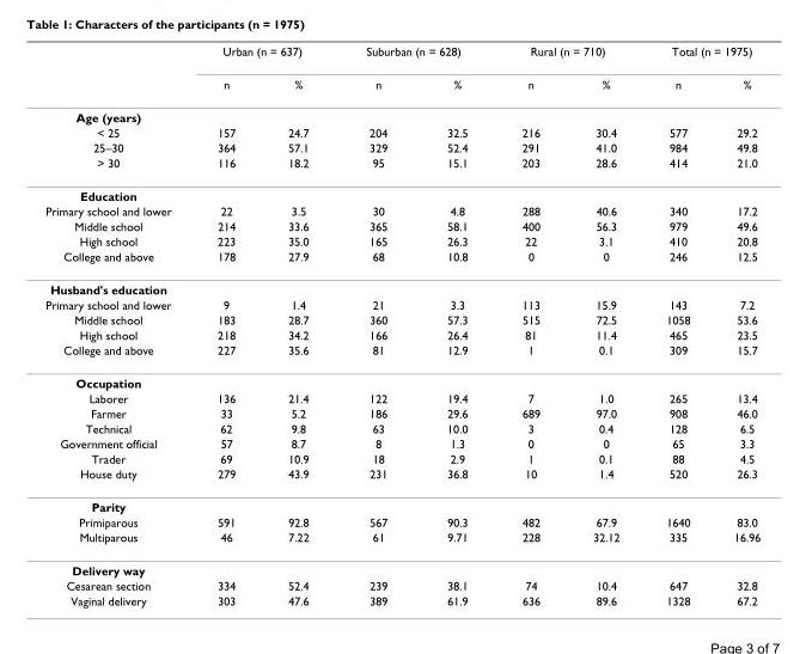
<table><thead><tr><td rowspan="2"></td><td colspan="2">Urban (n = 637)</td><td colspan="2">Suburban (n = 628)</td><td colspan="2">Rural (n = 710)</td><td colspan="2">Total (n = 1975)</td></tr><tr><td>n</td><td>%</td><td>n</td><td>%</td><td>n</td><td>%</td><td>n</td><td>%</td></tr></thead><tbody><tr><td colspan="9">Age (years)</td></tr><tr><td>&lt; 25</td><td>157</td><td>24.7</td><td>204</td><td>32.5</td><td>216</td><td>30.4</td><td>577</td><td>29.2</td></tr><tr><td>25–30</td><td>364</td><td>57.1</td><td>329</td><td>52.4</td><td>291</td><td>41.0</td><td>984</td><td>49.8</td></tr><tr><td>&gt; 30</td><td>116</td><td>18.2</td><td>95</td><td>15.1</td><td>203</td><td>28.6</td><td>414</td><td>21.0</td></tr><tr><td colspan="9">Education</td></tr><tr><td>Primary school and lower</td><td>22</td><td>3.5</td><td>30</td><td>4.8</td><td>288</td><td>40.6</td><td>340</td><td>17.2</td></tr><tr><td>Middle school</td><td>214</td><td>33.6</td><td>365</td><td>58.1</td><td>400</td><td>56.3</td><td>979</td><td>49.6</td></tr><tr><td>High school</td><td>223</td><td>35.0</td><td>165</td><td>26.3</td><td>22</td><td>3.1</td><td>410</td><td>20.8</td></tr><tr><td>College and above</td><td>178</td><td>27.9</td><td>68</td><td>10.8</td><td>0</td><td>0</td><td>246</td><td>12.5</td></tr><tr><td colspan="9">Husband&#x27;s education</td></tr><tr><td>Primary school and lower</td><td>9</td><td>1.4</td><td>21</td><td>3.3</td><td>113</td><td>15.9</td><td>143</td><td>7.2</td></tr><tr><td>Middle school</td><td>183</td><td>28.7</td><td>360</td><td>57.3</td><td>515</td><td>72.5</td><td>1058</td><td>53.6</td></tr><tr><td>High school</td><td>218</td><td>34.2</td><td>166</td><td>26.4</td><td>81</td><td>11.4</td><td>465</td><td>23.5</td></tr><tr><td>College and above</td><td>227</td><td>35.6</td><td>81</td><td>12.9</td><td>1</td><td>0.1</td><td>309</td><td>15.7</td></tr><tr><td colspan="9">Occupation</td></tr><tr><td>Laborer</td><td>136</td><td>21.4</td><td>122</td><td>19.4</td><td>7</td><td>1.0</td><td>265</td><td>13.4</td></tr><tr><td>Farmer</td><td>33</td><td>5.2</td><td>186</td><td>29.6</td><td>689</td><td>97.0</td><td>908</td><td>46.0</td></tr><tr><td>Technical</td><td>62</td><td>9.8</td><td>63</td><td>10.0</td><td>3</td><td>0.4</td><td>128</td><td>6.5</td></tr><tr><td>Government official</td><td>57</td><td>8.7</td><td>8</td><td>1.3</td><td>0</td><td>0</td><td>65</td><td>3.3</td></tr><tr><td>Trader</td><td>69</td><td>10.9</td><td>18</td><td>2.9</td><td>1</td><td>0.1</td><td>88</td><td>4.5</td></tr><tr><td>House duty</td><td>279</td><td>43.9</td><td>231</td><td>36.8</td><td>10</td><td>1.4</td><td>520</td><td>26.3</td></tr><tr><td colspan="9">Parity</td></tr><tr><td>Primiparous</td><td>591</td><td>92.8</td><td>567</td><td>90.3</td><td>482</td><td>67.9</td><td>1640</td><td>83.0</td></tr><tr><td>Multiparous</td><td>46</td><td>7.22</td><td>61</td><td>9.71</td><td>228</td><td>32.12</td><td>335</td><td>16.96</td></tr><tr><td colspan="9">Delivery way</td></tr><tr><td>Cesarean section</td><td>334</td><td>52.4</td><td>239</td><td>38.1</td><td>74</td><td>10.4</td><td>647</td><td>32.8</td></tr><tr><td>Vaginal delivery</td><td>303</td><td>47.6</td><td>389</td><td>61.9</td><td>636</td><td>89.6</td><td>1328</td><td>67.2</td></tr></tbody></table>